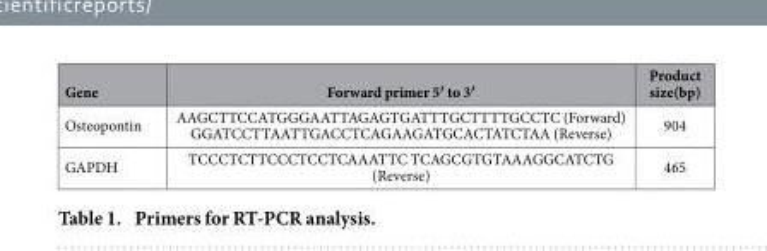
<table><thead><tr><td>Gene</td><td>Forward primer 5′ to 3′</td><td>Product size(bp)</td></tr></thead><tbody><tr><td>Osteopontin</td><td>AAGCTTCCATGGGAATTAGAGTGATTTGCTTTTGCCTC (Forward) GGATCCTTAATTGACCTCAGAAGATGCACTATCTAA (Reverse)</td><td>904</td></tr><tr><td>GAPDH</td><td>TCCCTCTTCCCTCCTCAAATTC TCAGCGTGTAAAGGCATCTG (Reverse)</td><td>465</td></tr></tbody></table>